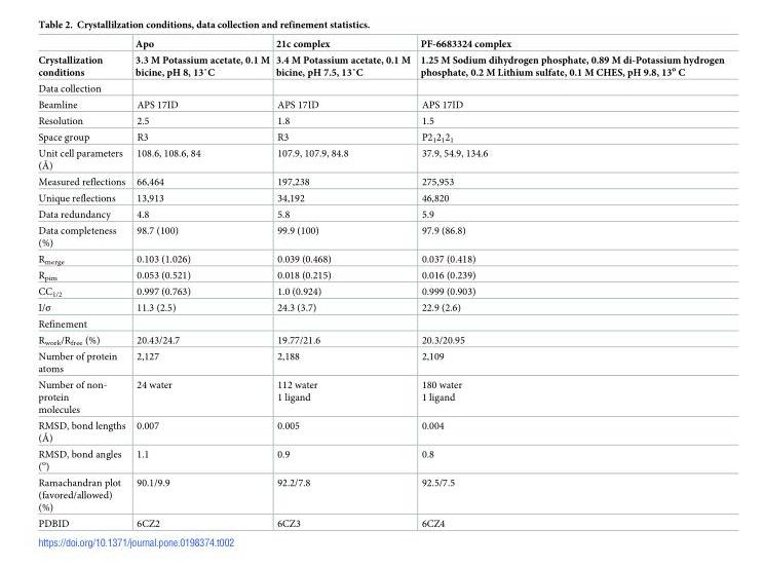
<table><thead><tr><td rowspan="2">Crystallization conditions</td><td rowspan="2">Apo 3.3 M Potassium acetate, 0.1 M bicine, pH 8, 13˚C</td><td rowspan="2">21c complex 3.4 M Potassium acetate, 0.1 M bicine, pH 7.5, 13˚C</td><td rowspan="2">PF-6683324 complex 1.25 M Sodium dihydrogen phosphate, 0.89 M di-Potassium hydrogen phosphate, 0.2 M Lithium sulfate, 0.1 M CHES, pH 9.8, 13<sup>o</sup> C</td></tr><tr></tr></thead><tbody><tr><td colspan="4">Data collection</td></tr><tr><td>Beamline</td><td>APS 17ID</td><td>APS 17ID</td><td>APS 17ID</td></tr><tr><td>Resolution</td><td>2.5</td><td>1.8</td><td>1.5</td></tr><tr><td>Space group</td><td>R3</td><td>R3</td><td>P2<sub>1</sub>2<sub>1</sub>2<sub>1</sub></td></tr><tr><td>Unit cell parameters (Å)</td><td>108.6, 108.6, 84</td><td>107.9, 107.9, 84.8</td><td>37.9, 54.9, 134.6</td></tr><tr><td>Measured reflections</td><td>66,464</td><td>197,238</td><td>275,953</td></tr><tr><td>Unique reflections</td><td>13,913</td><td>34,192</td><td>46,820</td></tr><tr><td>Data redundancy</td><td>4.8</td><td>5.8</td><td>5.9</td></tr><tr><td>Data completeness (%)</td><td>98.7 (100)</td><td>99.9 (100)</td><td>97.9 (86.8)</td></tr><tr><td>R<sub>merge</sub></td><td>0.103 (1.026)</td><td>0.039 (0.468)</td><td>0.037 (0.418)</td></tr><tr><td>R<sub>pim</sub></td><td>0.053 (0.521)</td><td>0.018 (0.215)</td><td>0.016 (0.239)</td></tr><tr><td>CC<sub>1/2</sub></td><td>0.997 (0.763)</td><td>1.0 (0.924)</td><td>0.999 (0.903)</td></tr><tr><td>I/σ</td><td>11.3 (2.5)</td><td>24.3 (3.7)</td><td>22.9 (2.6)</td></tr><tr><td colspan="4">Refinement</td></tr><tr><td>R<sub>work</sub>/R<sub>free</sub> (%)</td><td>20.43/24.7</td><td>19.77/21.6</td><td>20.3/20.95</td></tr><tr><td>Number of protein atoms</td><td>2,127</td><td>2,188</td><td>2,109</td></tr><tr><td>Number of non- protein molecules</td><td>24 water</td><td>112 water 1 ligand</td><td>180 water 1 ligand</td></tr><tr><td>RMSD, bond lengths (Å)</td><td>0.007</td><td>0.005</td><td>0.004</td></tr><tr><td>RMSD, bond angles (<sup>o</sup>)</td><td>1.1</td><td>0.9</td><td>0.8</td></tr><tr><td>Ramachandran plot (favored/allowed) (%)</td><td>90.1/9.9</td><td>92.2/7.8</td><td>92.5/7.5</td></tr><tr><td>PDBID</td><td>6CZ2</td><td>6CZ3</td><td>6CZ4</td></tr></tbody></table>